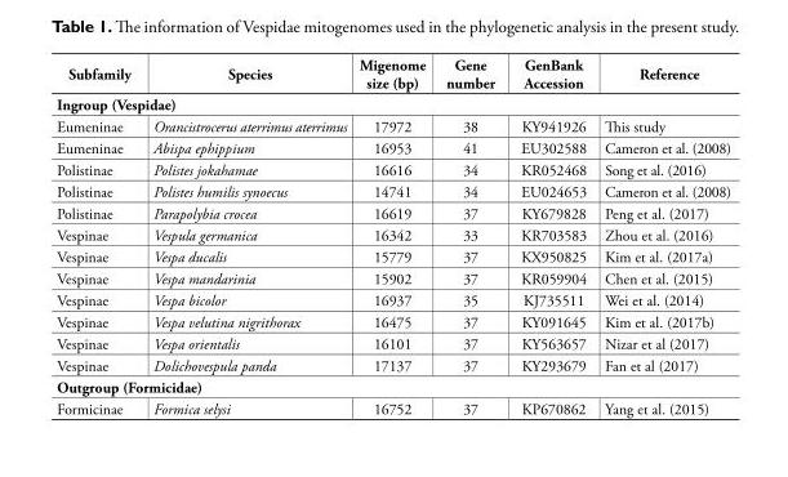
<table><tbody><tr><td>Subfamily</td><td>Species</td><td>Migenome size (bp)</td><td>Gene number</td><td>GenBank Accession</td><td>Reference</td></tr><tr><td colspan="6">Ingroup (Vespidae)</td></tr><tr><td>Eumeninae</td><td>Orancistrocerus aterrimus aterrimus</td><td>17972</td><td>38</td><td>KY941926</td><td>This study</td></tr><tr><td>Eumeninae</td><td>Abispa ephippium</td><td>16953</td><td>41</td><td>EU302588</td><td>Cameron et al. (2008)</td></tr><tr><td>Polistinae</td><td>Polistes jokahamae</td><td>16616</td><td>34</td><td>KR052468</td><td>Song et al. (2016)</td></tr><tr><td>Polistinae</td><td>Polistes humilis synoecus</td><td>14741</td><td>34</td><td>EU024653</td><td>Cameron et al. (2008)</td></tr><tr><td>Polistinae</td><td>Parapolybia crocea</td><td>16619</td><td>37</td><td>KY679828</td><td>Peng et al. (2017)</td></tr><tr><td>Vespinae</td><td>Vespula germanica</td><td>16342</td><td>33</td><td>KR703583</td><td>Zhou et al. (2016)</td></tr><tr><td>Vespinae</td><td>Vespa ducalis</td><td>15779</td><td>37</td><td>KX950825</td><td>Kim et al. (2017a)</td></tr><tr><td>Vespinae</td><td>Vespa mandarinia</td><td>15902</td><td>37</td><td>KR059904</td><td>Chen et al. (2015)</td></tr><tr><td>Vespinae</td><td>Vespa bicolor</td><td>16937</td><td>35</td><td>KJ735511</td><td>Wei et al. (2014)</td></tr><tr><td>Vespinae</td><td>Vespa velutina nigrithorax</td><td>16475</td><td>37</td><td>KY091645</td><td>Kim et al. (2017b)</td></tr><tr><td>Vespinae</td><td>Vespa orientalis</td><td>16101</td><td>37</td><td>KY563657</td><td>Nizar et al (2017)</td></tr><tr><td>Vespinae</td><td>Dolichovespula panda</td><td>17137</td><td>37</td><td>KY293679</td><td>Fan et al (2017)</td></tr><tr><td colspan="6">Outgroup (Formicidae)</td></tr><tr><td>Formicinae</td><td>Formica selysi</td><td>16752</td><td>37</td><td>KP670862</td><td>Yang et al. (2015)</td></tr></tbody></table>